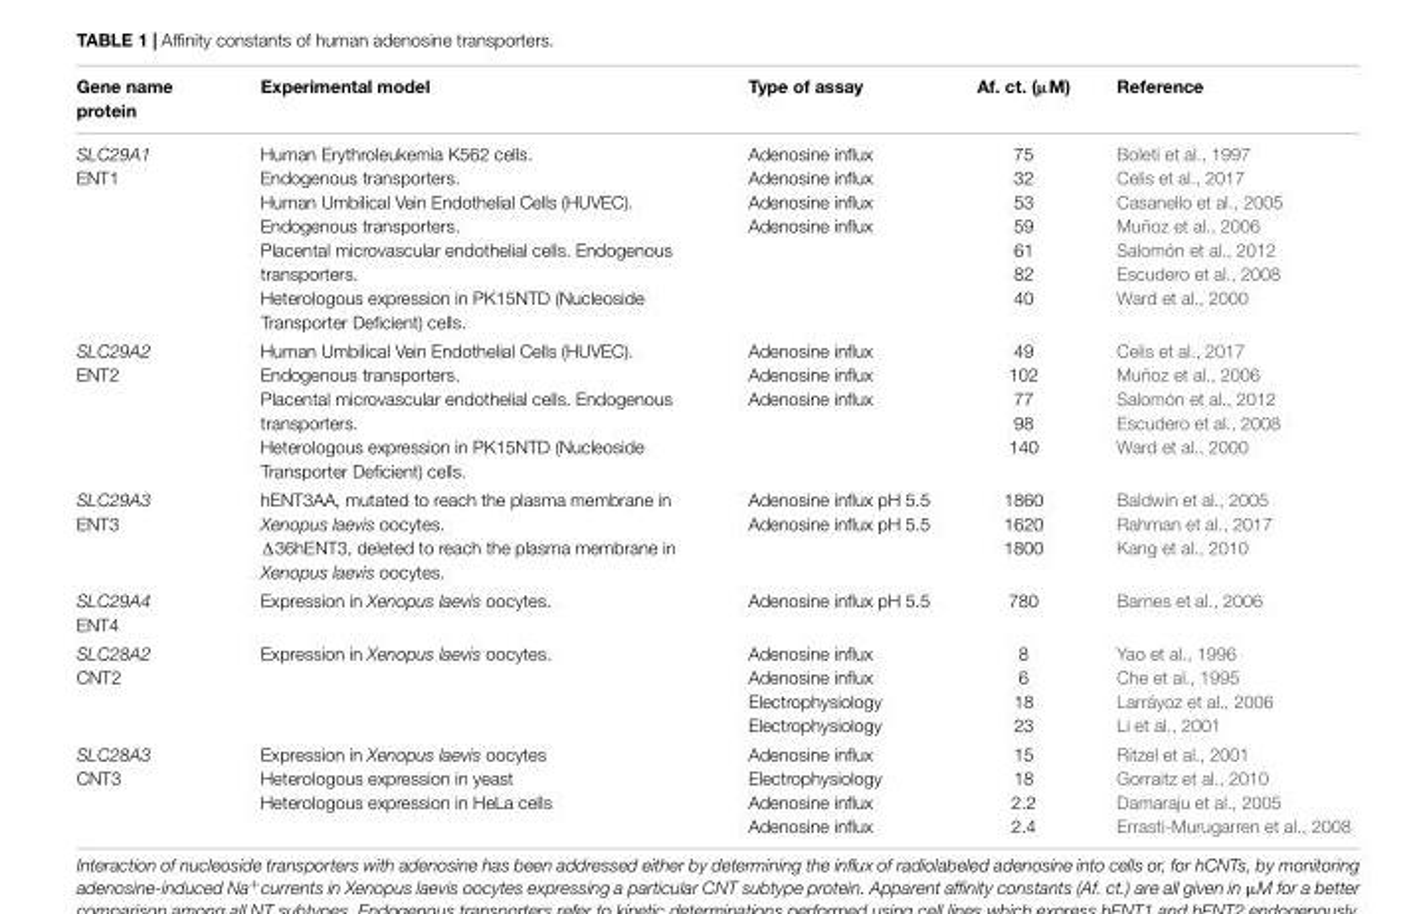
<table><thead><tr><td>Gene name protein</td><td>Experimental model</td><td>Type of assay</td><td>Af. ct. (µM)</td><td>Reference</td></tr></thead><tbody><tr><td>SLC29A1 ENT1</td><td>Human Erythroleukemia K562 cells. Endogenous transporters. Human Umbilical Vein Endothelial Cells (HUVEC). Endogenous transporters. Placental microvascular endothelial cells. Endogenous transporters. Heterologous expression in PK15NTD (Nucleoside Transporter Deficient) cells.</td><td>Adenosine influx Adenosine influx Adenosine influx Adenosine influx</td><td>75 32 53 59 61 82 40</td><td>Boleti et al., 1997 Celis et al., 2017 Casanello et al., 2005 Muñoz et al., 2006 Salomón et al., 2012 Escudero et al., 2008 Ward et al., 2000</td></tr><tr><td>SLC29A2 ENT2</td><td>Human Umbilical Vein Endothelial Cells (HUVEC). Endogenous transporters. Placental microvascular endothelial cells. Endogenous transporters. Heterologous expression in PK15NTD (Nucleoside Transporter Deficient) cells.</td><td>Adenosine influx Adenosine influx Adenosine influx</td><td>49 102 77 98 140</td><td>Celis et al., 2017 Muñoz et al., 2006 Salomón et al., 2012 Escudero et al., 2008 Ward et al., 2000</td></tr><tr><td>SLC29A3 ENT3</td><td>hENT3AA, mutated to reach the plasma membrane in Xenopus laevis oocytes. Δ36hENT3, deleted to reach the plasma membrane in Xenopus laevis oocytes.</td><td>Adenosine influx pH 5.5 Adenosine influx pH 5.5</td><td>1860 1620 1800</td><td>Baldwin et al., 2005 Rahman et al., 2017 Kang et al., 2010</td></tr><tr><td>SLC29A4 ENT4</td><td>Expression in Xenopus laevis oocytes.</td><td>Adenosine influx pH 5.5</td><td>780</td><td>Barnes et al., 2006</td></tr><tr><td>SLC28A2 CNT2</td><td>Expression in Xenopus laevis oocytes.</td><td>Adenosine influx Adenosine influx Electrophysiology Electrophysiology</td><td>8 6 18 23</td><td>Yao et al., 1996 Che et al., 1995 Larráyoz et al., 2006 Li et al., 2001</td></tr><tr><td>SLC28A3 CNT3</td><td>Expression in Xenopus laevis oocytes Heterologous expression in yeast Heterologous expression in HeLa cells</td><td>Adenosine influx Electrophysiology Adenosine influx Adenosine influx</td><td>15 18 2.2 2.4</td><td>Ritzel et al., 2001 Gorraitz et al., 2010 Damaraju et al., 2005 Errasti-Murugarren et al., 2008</td></tr></tbody></table>